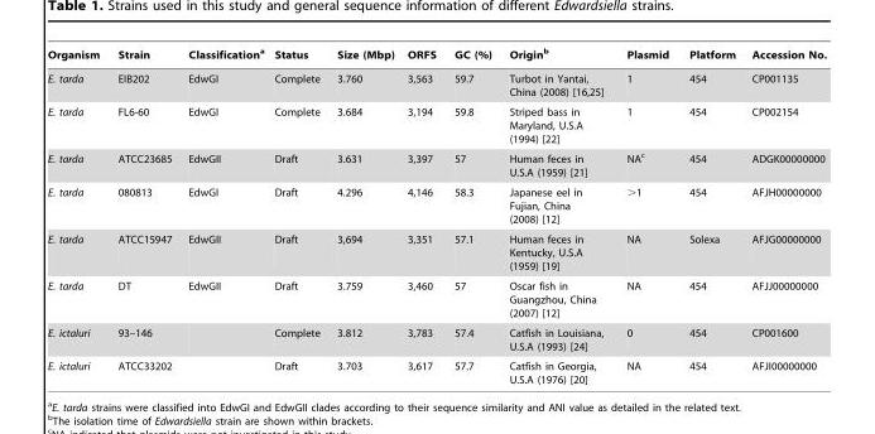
<table><thead><tr><td>Organism</td><td>Strain</td><td>Classification<sup>a</sup></td><td>Status</td><td>Size (Mbp)</td><td>ORFS</td><td>GC (%)</td><td>Origin<sup>b</sup></td><td>Plasmid</td><td>Platform</td><td>Accession No.</td></tr></thead><tbody><tr><td>E. tarda</td><td>EIB202</td><td>EdwGI</td><td>Complete</td><td>3.760</td><td>3,563</td><td>59.7</td><td>Turbot in Yantai, China (2008) [16,25]</td><td>1</td><td>454</td><td>CP001135</td></tr><tr><td>E. tarda</td><td>FL6-60</td><td>EdwGI</td><td>Complete</td><td>3.684</td><td>3,194</td><td>59.8</td><td>Striped bass in Maryland, U.S.A (1994) [22]</td><td>1</td><td>454</td><td>CP002154</td></tr><tr><td>E. tarda</td><td>ATCC23685</td><td>EdwGII</td><td>Draft</td><td>3.631</td><td>3,397</td><td>57</td><td>Human feces in U.S.A (1959) [21]</td><td>NA<sup>c</sup></td><td>454</td><td>ADGK00000000</td></tr><tr><td>E. tarda</td><td>080813</td><td>EdwGI</td><td>Draft</td><td>4.296</td><td>4,146</td><td>58.3</td><td>Japanese eel in Fujian, China (2008) [12]</td><td>&gt;1</td><td>454</td><td>AFJH00000000</td></tr><tr><td>E. tarda</td><td>ATCC15947</td><td>EdwGII</td><td>Draft</td><td>3,694</td><td>3,351</td><td>57.1</td><td>Human feces in Kentucky, U.S.A (1959) [19]</td><td>NA</td><td>Solexa</td><td>AFJG00000000</td></tr><tr><td>E. tarda</td><td>DT</td><td>EdwGII</td><td>Draft</td><td>3.759</td><td>3,460</td><td>57</td><td>Oscar fish in Guangzhou, China (2007) [12]</td><td>NA</td><td>454</td><td>AFJJ00000000</td></tr><tr><td>E. ictaluri</td><td>93–146</td><td></td><td>Complete</td><td>3.812</td><td>3,783</td><td>57.4</td><td>Catfish in Louisiana, U.S.A (1993) [24]</td><td>0</td><td>454</td><td>CP001600</td></tr><tr><td>E. ictaluri</td><td>ATCC33202</td><td></td><td>Draft</td><td>3.703</td><td>3,617</td><td>57.7</td><td>Catfish in Georgia, U.S.A (1976) [20]</td><td>NA</td><td>454</td><td>AFJI00000000</td></tr></tbody></table>